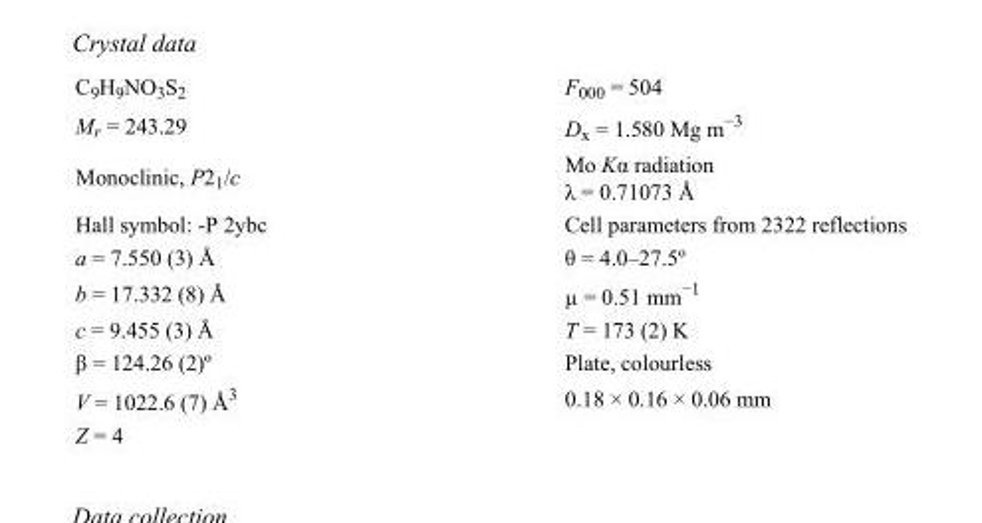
<table><tbody><tr><td>C<sub>9</sub>H<sub>9</sub>NO<sub>3</sub>S<sub>2</sub></td><td>F000 = 504</td></tr><tr><td>M<sub>r</sub> = 243.29</td><td>D<sub>x</sub> = 1.580 Mg m<sup>−3</sup></td></tr><tr><td>Monoclinic, P2<sub>1</sub>/c</td><td>Mo Kα radiation λ = 0.71073 Å</td></tr><tr><td>Hall symbol: -P 2ybc</td><td>Cell parameters from 2322 reflections</td></tr><tr><td>a = 7.550 (3) Å</td><td>θ = 4.0–27.5º</td></tr><tr><td>b = 17.332 (8) Å</td><td>µ = 0.51 mm<sup>−1</sup></td></tr><tr><td>c = 9.455 (3) Å</td><td>T = 173 (2) K</td></tr><tr><td>β = 124.26 (2)º</td><td>Plate, colourless</td></tr><tr><td>V = 1022.6 (7) Å<sup>3</sup></td><td>0.18 × 0.16 × 0.06 mm</td></tr><tr><td>Z = 4</td><td></td></tr></tbody></table>